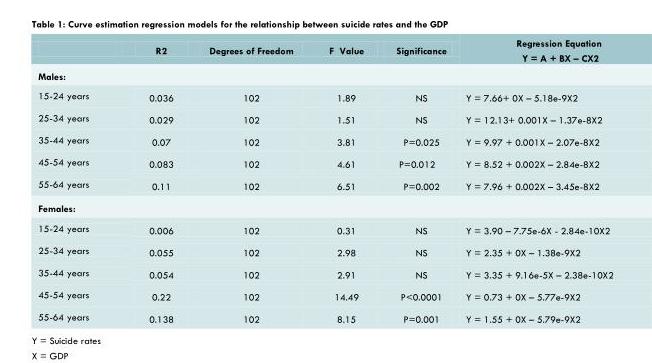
<table><thead><tr><td></td><td>R2</td><td>Degrees of Freedom</td><td>F Value</td><td>Significance</td><td>Regression Equation Y = A + BX – CX2</td></tr></thead><tbody><tr><td colspan="6">Males:</td></tr><tr><td>15-24 years</td><td>0.036</td><td>102</td><td>1.89</td><td>NS</td><td>Y = 7.66+ 0X – 5.18e-9X2</td></tr><tr><td>25-34 years</td><td>0.029</td><td>102</td><td>1.51</td><td>NS</td><td>Y = 12.13+ 0.001X – 1.37e-8X2</td></tr><tr><td>35-44 years</td><td>0.07</td><td>102</td><td>3.81</td><td>P=0.025</td><td>Y = 9.97 + 0.001X – 2.07e-8X2</td></tr><tr><td>45-54 years</td><td>0.083</td><td>102</td><td>4.61</td><td>P=0.012</td><td>Y = 8.52 + 0.002X – 2.84e-8X2</td></tr><tr><td>55-64 years</td><td>0.11</td><td>102</td><td>6.51</td><td>P=0.002</td><td>Y = 7.96 + 0.002X – 3.45e-8X2</td></tr><tr><td colspan="6">Females:</td></tr><tr><td>15-24 years</td><td>0.006</td><td>102</td><td>0.31</td><td>NS</td><td>Y = 3.90 – 7.75e-6X - 2.84e-10X2</td></tr><tr><td>25-34 years</td><td>0.055</td><td>102</td><td>2.98</td><td>NS</td><td>Y = 2.35 + 0X – 1.38e-9X2</td></tr><tr><td>35-44 years</td><td>0.054</td><td>102</td><td>2.91</td><td>NS</td><td>Y = 3.35 + 9.16e-5X – 2.38e-10X2</td></tr><tr><td>45-54 years</td><td>0.22</td><td>102</td><td>14.49</td><td>P&lt;0.0001</td><td>Y = 0.73 + 0X – 5.77e-9X2</td></tr><tr><td>55-64 years</td><td>0.138</td><td>102</td><td>8.15</td><td>P=0.001</td><td>Y = 1.55 + 0X – 5.79e-9X2</td></tr></tbody></table>